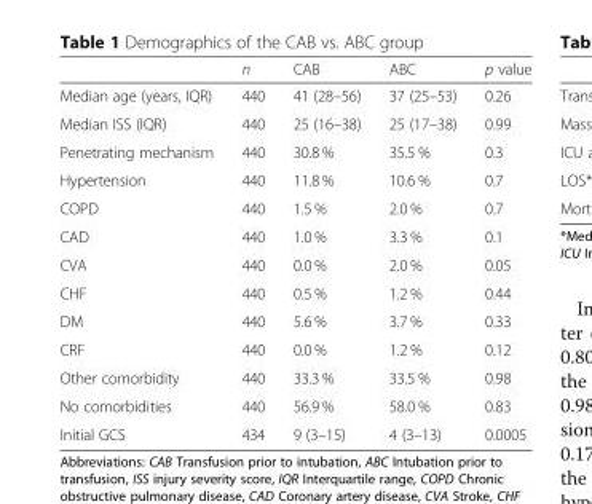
<table><thead><tr><td></td><td>n</td><td>CAB</td><td>ABC</td><td>p value</td></tr></thead><tbody><tr><td>Median age (years, IQR)</td><td>440</td><td>41 (28–56)</td><td>37 (25–53)</td><td>0.26</td></tr><tr><td>Median ISS (IQR)</td><td>440</td><td>25 (16–38)</td><td>25 (17–38)</td><td>0.99</td></tr><tr><td>Penetrating mechanism</td><td>440</td><td>30.8 %</td><td>35.5 %</td><td>0.3</td></tr><tr><td>Hypertension</td><td>440</td><td>11.8 %</td><td>10.6 %</td><td>0.7</td></tr><tr><td>COPD</td><td>440</td><td>1.5 %</td><td>2.0 %</td><td>0.7</td></tr><tr><td>CAD</td><td>440</td><td>1.0 %</td><td>3.3 %</td><td>0.1</td></tr><tr><td>CVA</td><td>440</td><td>0.0 %</td><td>2.0 %</td><td>0.05</td></tr><tr><td>CHF</td><td>440</td><td>0.5 %</td><td>1.2 %</td><td>0.44</td></tr><tr><td>DM</td><td>440</td><td>5.6 %</td><td>3.7 %</td><td>0.33</td></tr><tr><td>CRF</td><td>440</td><td>0.0 %</td><td>1.2 %</td><td>0.12</td></tr><tr><td>Other comorbidity</td><td>440</td><td>33.3 %</td><td>33.5 %</td><td>0.98</td></tr><tr><td>No comorbidities</td><td>440</td><td>56.9 %</td><td>58.0 %</td><td>0.83</td></tr><tr><td>Initial GCS</td><td>434</td><td>9 (3–15)</td><td>4 (3–13)</td><td>0.0005</td></tr></tbody></table>